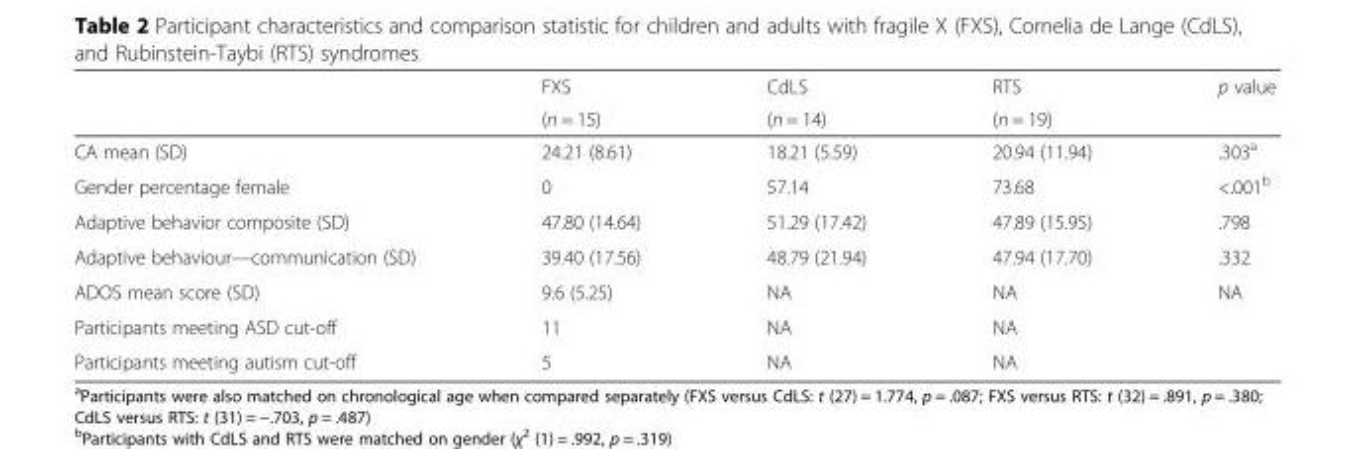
<table><thead><tr><td rowspan="2"></td><td rowspan="2">FXS (n = 15)</td><td rowspan="2">CdLS (n = 14)</td><td rowspan="2">RTS (n = 19)</td><td rowspan="2">p value</td></tr><tr></tr></thead><tbody><tr><td>CA mean (SD)</td><td>24.21 (8.61)</td><td>18.21 (5.59)</td><td>20.94 (11.94)</td><td>.303<sup>a</sup></td></tr><tr><td>Gender percentage female</td><td>0</td><td>57.14</td><td>73.68</td><td>&lt;.001<sup>b</sup></td></tr><tr><td>Adaptive behavior composite (SD)</td><td>47.80 (14.64)</td><td>51.29 (17.42)</td><td>47.89 (15.95)</td><td>.798</td></tr><tr><td>Adaptive behaviour—communication (SD)</td><td>39.40 (17.56)</td><td>48.79 (21.94)</td><td>47.94 (17.70)</td><td>.332</td></tr><tr><td>ADOS mean score (SD)</td><td>9.6 (5.25)</td><td>NA</td><td>NA</td><td>NA</td></tr><tr><td>Participants meeting ASD cut-off</td><td>11</td><td>NA</td><td>NA</td><td></td></tr><tr><td>Participants meeting autism cut-off</td><td>5</td><td>NA</td><td>NA</td><td></td></tr></tbody></table>